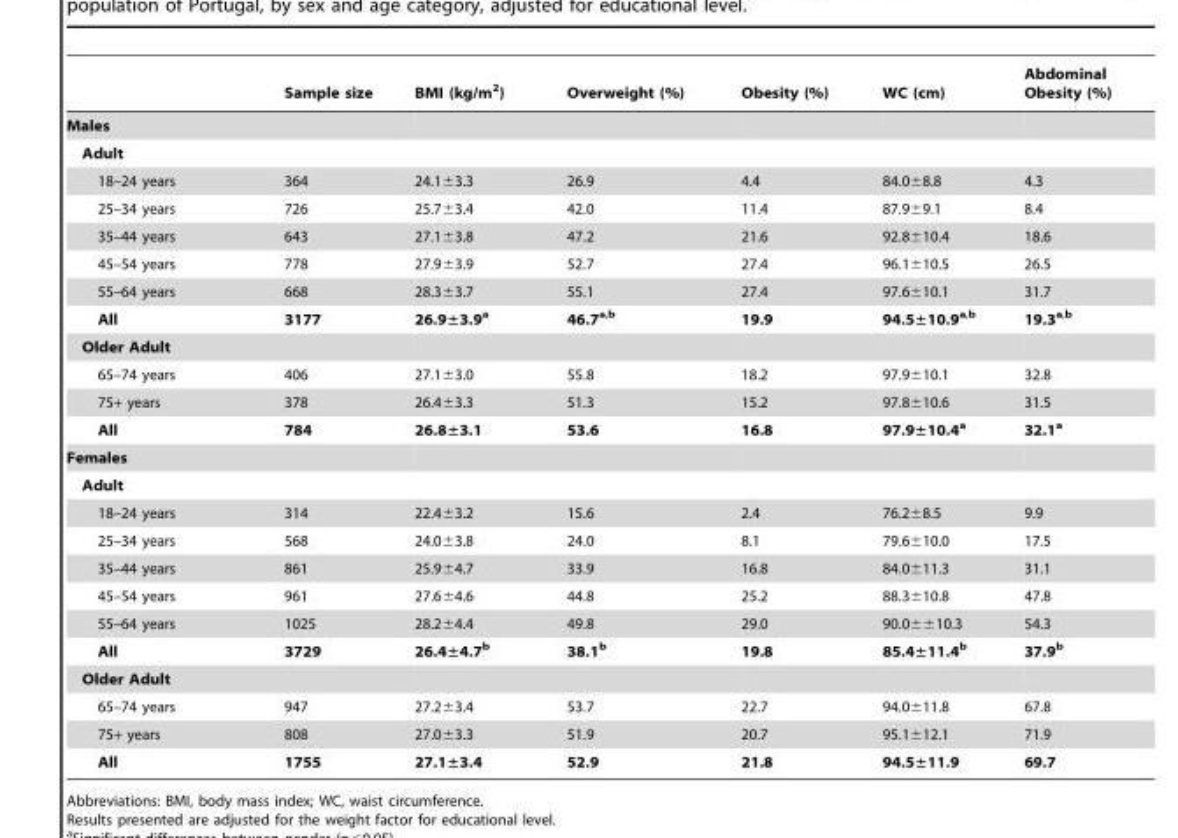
<table><thead><tr><td></td><td>Sample size</td><td>BMI (kg/m<sup>2</sup>)</td><td>Overweight (%)</td><td>Obesity (%)</td><td>WC (cm)</td><td>Abdominal Obesity (%)</td></tr></thead><tbody><tr><td colspan="7">Males</td></tr><tr><td colspan="7">Adult</td></tr><tr><td>18–24 years</td><td>364</td><td>24.1±3.3</td><td>26.9</td><td>4.4</td><td>84.0±8.8</td><td>4.3</td></tr><tr><td>25–34 years</td><td>726</td><td>25.7±3.4</td><td>42.0</td><td>11.4</td><td>87.9±9.1</td><td>8.4</td></tr><tr><td>35–44 years</td><td>643</td><td>27.1±3.8</td><td>47.2</td><td>21.6</td><td>92.8±10.4</td><td>18.6</td></tr><tr><td>45–54 years</td><td>778</td><td>27.9±3.9</td><td>52.7</td><td>27.4</td><td>96.1±10.5</td><td>26.5</td></tr><tr><td>55–64 years</td><td>668</td><td>28.3±3.7</td><td>55.1</td><td>27.4</td><td>97.6±10.1</td><td>31.7</td></tr><tr><td>All</td><td>3177</td><td>26.9±3.9a</td><td>46.7a<sup>,</sup>b</td><td>19.9</td><td>94.5±10.9a<sup>,</sup>b</td><td>19.3a<sup>,</sup>b</td></tr><tr><td colspan="7">Older Adult</td></tr><tr><td>65–74 years</td><td>406</td><td>27.1±3.0</td><td>55.8</td><td>18.2</td><td>97.9±10.1</td><td>32.8</td></tr><tr><td>75+ years</td><td>378</td><td>26.4±3.3</td><td>51.3</td><td>15.2</td><td>97.8±10.6</td><td>31.5</td></tr><tr><td>All</td><td>784</td><td>26.8±3.1</td><td>53.6</td><td>16.8</td><td>97.9±10.4a</td><td>32.1a</td></tr><tr><td colspan="7">Females</td></tr><tr><td colspan="7">Adult</td></tr><tr><td>18–24 years</td><td>314</td><td>22.4±3.2</td><td>15.6</td><td>2.4</td><td>76.2±8.5</td><td>9.9</td></tr><tr><td>25–34 years</td><td>568</td><td>24.0±3.8</td><td>24.0</td><td>8.1</td><td>79.6±10.0</td><td>17.5</td></tr><tr><td>35–44 years</td><td>861</td><td>25.9±4.7</td><td>33.9</td><td>16.8</td><td>84.0±11.3</td><td>31.1</td></tr><tr><td>45–54 years</td><td>961</td><td>27.6±4.6</td><td>44.8</td><td>25.2</td><td>88.3±10.8</td><td>47.8</td></tr><tr><td>55–64 years</td><td>1025</td><td>28.2±4.4</td><td>49.8</td><td>29.0</td><td>90.0±±10.3</td><td>54.3</td></tr><tr><td>All</td><td>3729</td><td>26.4±4.7b</td><td>38.1b</td><td>19.8</td><td>85.4±11.4b</td><td>37.9b</td></tr><tr><td colspan="7">Older Adult</td></tr><tr><td>65–74 years</td><td>947</td><td>27.2±3.4</td><td>53.7</td><td>22.7</td><td>94.0±11.8</td><td>67.8</td></tr><tr><td>75+ years</td><td>808</td><td>27.0±3.3</td><td>51.9</td><td>20.7</td><td>95.1±12.1</td><td>71.9</td></tr><tr><td>All</td><td>1755</td><td>27.1±3.4</td><td>52.9</td><td>21.8</td><td>94.5±11.9</td><td>69.7</td></tr></tbody></table>